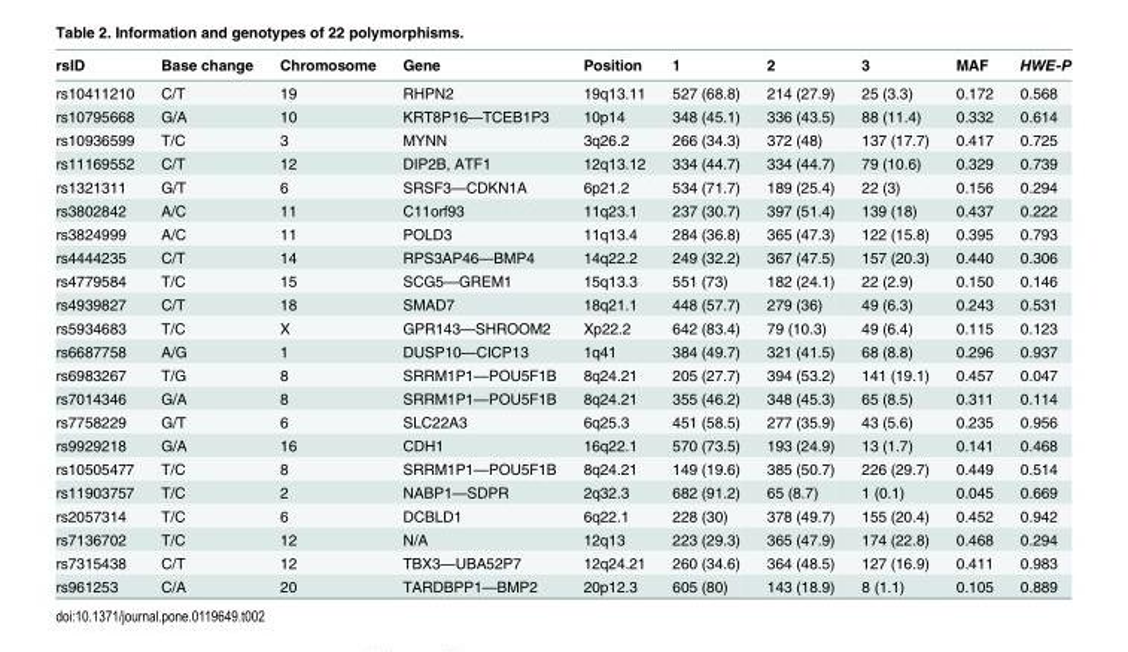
<table><thead><tr><td>rsID</td><td>Base change</td><td>Chromosome</td><td>Gene</td><td>Position</td><td>1</td><td>2</td><td>3</td><td>MAF</td><td>HWE-P</td></tr></thead><tbody><tr><td>rs10411210</td><td>C/T</td><td>19</td><td>RHPN2</td><td>19q13.11</td><td>527 (68.8)</td><td>214 (27.9)</td><td>25 (3.3)</td><td>0.172</td><td>0.568</td></tr><tr><td>rs10795668</td><td>G/A</td><td>10</td><td>KRT8P16—TCEB1P3</td><td>10p14</td><td>348 (45.1)</td><td>336 (43.5)</td><td>88 (11.4)</td><td>0.332</td><td>0.614</td></tr><tr><td>rs10936599</td><td>T/C</td><td>3</td><td>MYNN</td><td>3q26.2</td><td>266 (34.3)</td><td>372 (48)</td><td>137 (17.7)</td><td>0.417</td><td>0.725</td></tr><tr><td>rs11169552</td><td>C/T</td><td>12</td><td>DIP2B, ATF1</td><td>12q13.12</td><td>334 (44.7)</td><td>334 (44.7)</td><td>79 (10.6)</td><td>0.329</td><td>0.739</td></tr><tr><td>rs1321311</td><td>G/T</td><td>6</td><td>SRSF3—CDKN1A</td><td>6p21.2</td><td>534 (71.7)</td><td>189 (25.4)</td><td>22 (3)</td><td>0.156</td><td>0.294</td></tr><tr><td>rs3802842</td><td>A/C</td><td>11</td><td>C11orf93</td><td>11q23.1</td><td>237 (30.7)</td><td>397 (51.4)</td><td>139 (18)</td><td>0.437</td><td>0.222</td></tr><tr><td>rs3824999</td><td>A/C</td><td>11</td><td>POLD3</td><td>11q13.4</td><td>284 (36.8)</td><td>365 (47.3)</td><td>122 (15.8)</td><td>0.395</td><td>0.793</td></tr><tr><td>rs4444235</td><td>C/T</td><td>14</td><td>RPS3AP46—BMP4</td><td>14q22.2</td><td>249 (32.2)</td><td>367 (47.5)</td><td>157 (20.3)</td><td>0.440</td><td>0.306</td></tr><tr><td>rs4779584</td><td>T/C</td><td>15</td><td>SCG5—GREM1</td><td>15q13.3</td><td>551 (73)</td><td>182 (24.1)</td><td>22 (2.9)</td><td>0.150</td><td>0.146</td></tr><tr><td>rs4939827</td><td>C/T</td><td>18</td><td>SMAD7</td><td>18q21.1</td><td>448 (57.7)</td><td>279 (36)</td><td>49 (6.3)</td><td>0.243</td><td>0.531</td></tr><tr><td>rs5934683</td><td>T/C</td><td>X</td><td>GPR143—SHROOM2</td><td>Xp22.2</td><td>642 (83.4)</td><td>79 (10.3)</td><td>49 (6.4)</td><td>0.115</td><td>0.123</td></tr><tr><td>rs6687758</td><td>A/G</td><td>1</td><td>DUSP10—CICP13</td><td>1q41</td><td>384 (49.7)</td><td>321 (41.5)</td><td>68 (8.8)</td><td>0.296</td><td>0.937</td></tr><tr><td>rs6983267</td><td>T/G</td><td>8</td><td>SRRM1P1—POU5F1B</td><td>8q24.21</td><td>205 (27.7)</td><td>394 (53.2)</td><td>141 (19.1)</td><td>0.457</td><td>0.047</td></tr><tr><td>rs7014346</td><td>G/A</td><td>8</td><td>SRRM1P1—POU5F1B</td><td>8q24.21</td><td>355 (46.2)</td><td>348 (45.3)</td><td>65 (8.5)</td><td>0.311</td><td>0.114</td></tr><tr><td>rs7758229</td><td>G/T</td><td>6</td><td>SLC22A3</td><td>6q25.3</td><td>451 (58.5)</td><td>277 (35.9)</td><td>43 (5.6)</td><td>0.235</td><td>0.956</td></tr><tr><td>rs9929218</td><td>G/A</td><td>16</td><td>CDH1</td><td>16q22.1</td><td>570 (73.5)</td><td>193 (24.9)</td><td>13 (1.7)</td><td>0.141</td><td>0.468</td></tr><tr><td>rs10505477</td><td>T/C</td><td>8</td><td>SRRM1P1—POU5F1B</td><td>8q24.21</td><td>149 (19.6)</td><td>385 (50.7)</td><td>226 (29.7)</td><td>0.449</td><td>0.514</td></tr><tr><td>rs11903757</td><td>T/C</td><td>2</td><td>NABP1—SDPR</td><td>2q32.3</td><td>682 (91.2)</td><td>65 (8.7)</td><td>1 (0.1)</td><td>0.045</td><td>0.669</td></tr><tr><td>rs2057314</td><td>T/C</td><td>6</td><td>DCBLD1</td><td>6q22.1</td><td>228 (30)</td><td>378 (49.7)</td><td>155 (20.4)</td><td>0.452</td><td>0.942</td></tr><tr><td>rs7136702</td><td>T/C</td><td>12</td><td>N/A</td><td>12q13</td><td>223 (29.3)</td><td>365 (47.9)</td><td>174 (22.8)</td><td>0.468</td><td>0.294</td></tr><tr><td>rs7315438</td><td>C/T</td><td>12</td><td>TBX3—UBA52P7</td><td>12q24.21</td><td>260 (34.6)</td><td>364 (48.5)</td><td>127 (16.9)</td><td>0.411</td><td>0.983</td></tr><tr><td>rs961253</td><td>C/A</td><td>20</td><td>TARDBPP1—BMP2</td><td>20p12.3</td><td>605 (80)</td><td>143 (18.9)</td><td>8 (1.1)</td><td>0.105</td><td>0.889</td></tr></tbody></table>